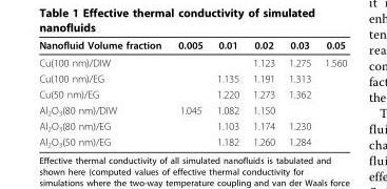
<table><thead><tr><td>Nanofluid Volume fraction</td><td>0.005</td><td>0.01</td><td>0.02</td><td>0.03</td><td>0.05</td></tr></thead><tbody><tr><td>Cu(100 nm)/DIW</td><td></td><td></td><td>1.123</td><td>1.275</td><td>1.560</td></tr><tr><td>Cu(100 nm)/EG</td><td></td><td>1.135</td><td>1.191</td><td>1.313</td><td></td></tr><tr><td>Cu(50 nm)/EG</td><td></td><td>1.220</td><td>1.273</td><td>1.362</td><td></td></tr><tr><td>Al<sub>2</sub>O<sub>3</sub>(80 nm)/DIW</td><td>1.045</td><td>1.082</td><td>1.150</td><td></td><td></td></tr><tr><td>Al<sub>2</sub>O<sub>3</sub>(80 nm)/EG</td><td></td><td>1.103</td><td>1.174</td><td>1.230</td><td></td></tr><tr><td>Al<sub>2</sub>O<sub>3</sub>(50 nm)/EG</td><td></td><td>1.182</td><td>1.260</td><td>1.284</td><td></td></tr></tbody></table>